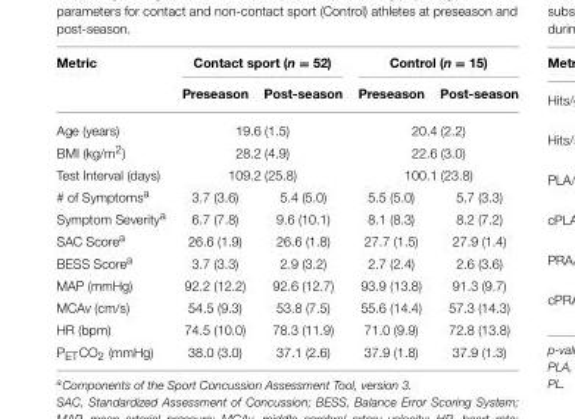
<table><thead><tr><td rowspan="2">Metric</td><td colspan="2">Contact sport (n = 52)</td><td colspan="2">Control (n = 15)</td></tr><tr><td>Preseason</td><td>Post-season</td><td>Preseason</td><td>Post-season</td></tr></thead><tbody><tr><td>Age (years)</td><td colspan="2">19.6 (1.5)</td><td colspan="2">20.4 (2.2)</td></tr><tr><td>BMI (kg/m<sup>2</sup>)</td><td colspan="2">28.2 (4.9)</td><td colspan="2">22.6 (3.0)</td></tr><tr><td>Test Interval (days)</td><td colspan="2">109.2 (25.8)</td><td colspan="2">100.1 (23.8)</td></tr><tr><td># of Symptoms<sup>a</sup></td><td>3.7 (3.6)</td><td>5.4 (5.0)</td><td>5.5 (5.0)</td><td>5.7 (3.3)</td></tr><tr><td>Symptom Severity<sup>a</sup></td><td>6.7 (7.8)</td><td>9.6 (10.1)</td><td>8.1 (8.3)</td><td>8.2 (7.2)</td></tr><tr><td>SAC Score<sup>a</sup></td><td>26.6 (1.9)</td><td>26.6 (1.8)</td><td>27.7 (1.5)</td><td>27.9 (1.4)</td></tr><tr><td>BESS Score<sup>a</sup></td><td>3.7 (3.3)</td><td>2.9 (3.2)</td><td>2.7 (2.4)</td><td>2.6 (3.6)</td></tr><tr><td>MAP (mmHg)</td><td>92.2 (12.2)</td><td>92.6 (12.7)</td><td>93.9 (13.8)</td><td>91.3 (9.7)</td></tr><tr><td>MCAv (cm/s)</td><td>54.5 (9.3)</td><td>53.8 (7.5)</td><td>55.6 (14.4)</td><td>57.3 (14.3)</td></tr><tr><td>HR (bpm)</td><td>74.5 (10.0)</td><td>78.3 (11.9)</td><td>71.0 (9.9)</td><td>72.8 (13.8)</td></tr><tr><td>P<sub>ET</sub>CO<sub>2</sub> (mmHg)</td><td>38.0 (3.0)</td><td>37.1 (2.6)</td><td>37.9 (1.8)</td><td>37.9 (1.3)</td></tr></tbody></table>